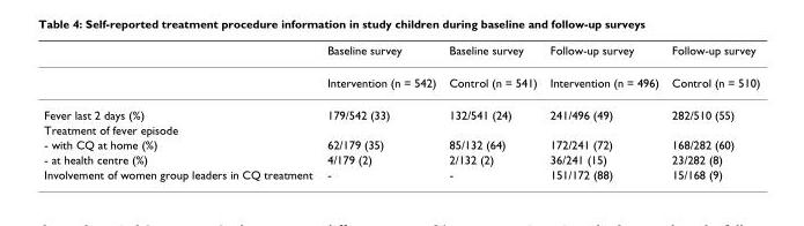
<table><thead><tr><td></td><td>Baseline survey</td><td>Baseline survey</td><td>Follow-up survey</td><td>Follow-up survey</td></tr></thead><tbody><tr><td></td><td>Intervention (n = 542)</td><td>Control (n = 541)</td><td>Intervention (n = 496)</td><td>Control (n = 510)</td></tr><tr><td>Fever last 2 days (%)</td><td>179/542 (33)</td><td>132/541 (24)</td><td>241/496 (49)</td><td>282/510 (55)</td></tr><tr><td colspan="5">Treatment of fever episode</td></tr><tr><td>- with CQ at home (%)</td><td>62/179 (35)</td><td>85/132 (64)</td><td>172/241 (72)</td><td>168/282 (60)</td></tr><tr><td>- at health centre (%)</td><td>4/179 (2)</td><td>2/132 (2)</td><td>36/241 (15)</td><td>23/282 (8)</td></tr><tr><td>Involvement of women group leaders in CQ treatment</td><td>-</td><td>-</td><td>151/172 (88)</td><td>15/168 (9)</td></tr></tbody></table>